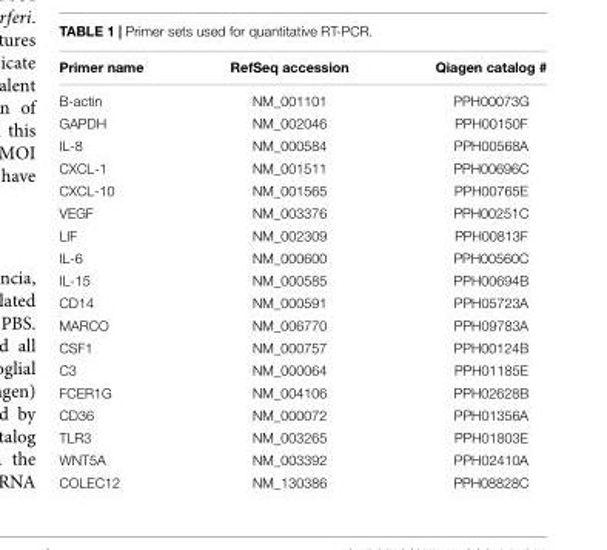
<table><thead><tr><td>Primer name</td><td>RefSeq accession</td><td>Qiagen catalog #</td></tr></thead><tbody><tr><td>B-actin</td><td>NM_001101</td><td>PPH00073G</td></tr><tr><td>GAPDH</td><td>NM_002046</td><td>PPH00150F</td></tr><tr><td>IL-8</td><td>NM_000584</td><td>PPH00568A</td></tr><tr><td>CXCL-1</td><td>NM_001511</td><td>PPH00696C</td></tr><tr><td>CXCL-10</td><td>NM_001565</td><td>PPH00765E</td></tr><tr><td>VEGF</td><td>NM_003376</td><td>PPH00251C</td></tr><tr><td>LIF</td><td>NM_002309</td><td>PPH00813F</td></tr><tr><td>IL-6</td><td>NM_000600</td><td>PPH00560C</td></tr><tr><td>IL-15</td><td>NM_000585</td><td>PPH00694B</td></tr><tr><td>CD14</td><td>NM_000591</td><td>PPH05723A</td></tr><tr><td>MARCO</td><td>NM_006770</td><td>PPH09783A</td></tr><tr><td>CSF1</td><td>NM_000757</td><td>PPH00124B</td></tr><tr><td>C3</td><td>NM_000064</td><td>PPH01185E</td></tr><tr><td>FCER1G</td><td>NM_004106</td><td>PPH02628B</td></tr><tr><td>CD36</td><td>NM_000072</td><td>PPH01356A</td></tr><tr><td>TLR3</td><td>NM_003265</td><td>PPH01803E</td></tr><tr><td>WNT5A</td><td>NM_003392</td><td>PPH02410A</td></tr><tr><td>COLEC12</td><td>NM_130386</td><td>PPH08828C</td></tr></tbody></table>